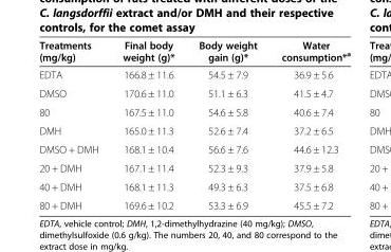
<table><thead><tr><td>Treatments (mg/kg)</td><td>Final body weight (g)*</td><td>Body weight gain (g)*</td><td>Water consumption*<sup>a</sup></td></tr></thead><tbody><tr><td>EDTA</td><td>166.8 ± 11.6</td><td>54.5 ± 7.9</td><td>36.9 ± 5.6</td></tr><tr><td>DMSO</td><td>170.6 ± 11.0</td><td>51.1 ± 6.3</td><td>41.5 ± 4.7</td></tr><tr><td>80</td><td>167.5 ± 11.0</td><td>54.6 ± 5.8</td><td>40.6 ± 7.4</td></tr><tr><td>DMH</td><td>165.0 ± 11.3</td><td>52.6 ± 7.4</td><td>37.2 ± 6.5</td></tr><tr><td>DMSO + DMH</td><td>168.1 ± 10.4</td><td>56.6 ± 7.6</td><td>44.6 ± 12.3</td></tr><tr><td>20 + DMH</td><td>167.1 ± 11.4</td><td>52.3 ± 9.3</td><td>37.9 ± 5.8</td></tr><tr><td>40 + DMH</td><td>168.1 ± 11.3</td><td>49.3 ± 6.3</td><td>37.5 ± 6.8</td></tr><tr><td>80 + DMH</td><td>169.6 ± 10.2</td><td>53.3 ± 6.9</td><td>45.5 ± 7.2</td></tr></tbody></table>